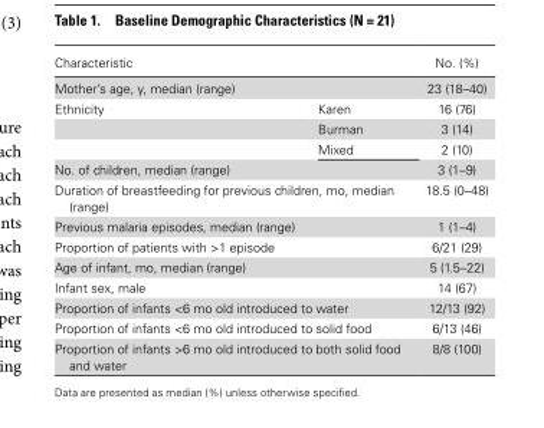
<table><thead><tr><td rowspan="2" colspan="2">Characteristic Mother’s age, y, median (range)</td><td rowspan="3">No. (%) 23 (18–40) 16 (76)</td></tr><tr></tr><tr><td>Ethnicity</td><td>Karen</td></tr></thead><tbody><tr><td></td><td>Burman</td><td>3 (14)</td></tr><tr><td></td><td>Mixed</td><td>2 (10)</td></tr><tr><td colspan="2">No. of children, median (range)</td><td>3 (1–9)</td></tr><tr><td colspan="2">Duration of breastfeeding for previous children, mo, median (range)</td><td>18.5 (0–48)</td></tr><tr><td colspan="2">Previous malaria episodes, median (range)</td><td>1 (1–4)</td></tr><tr><td colspan="2">Proportion of patients with &gt;1 episode</td><td>6/21 (29)</td></tr><tr><td colspan="2">Age of infant, mo, median (range)</td><td>5 (1.5–22)</td></tr><tr><td colspan="2">Infant sex, male</td><td>14 (67)</td></tr><tr><td colspan="2">Proportion of infants &lt;6 mo old introduced to water</td><td>12/13 (92)</td></tr><tr><td colspan="2">Proportion of infants &lt;6 mo old introduced to solid food</td><td>6/13 (46)</td></tr><tr><td colspan="2">Proportion of infants &gt;6 mo old introduced to both solid food and water</td><td>8/8 (100)</td></tr></tbody></table>